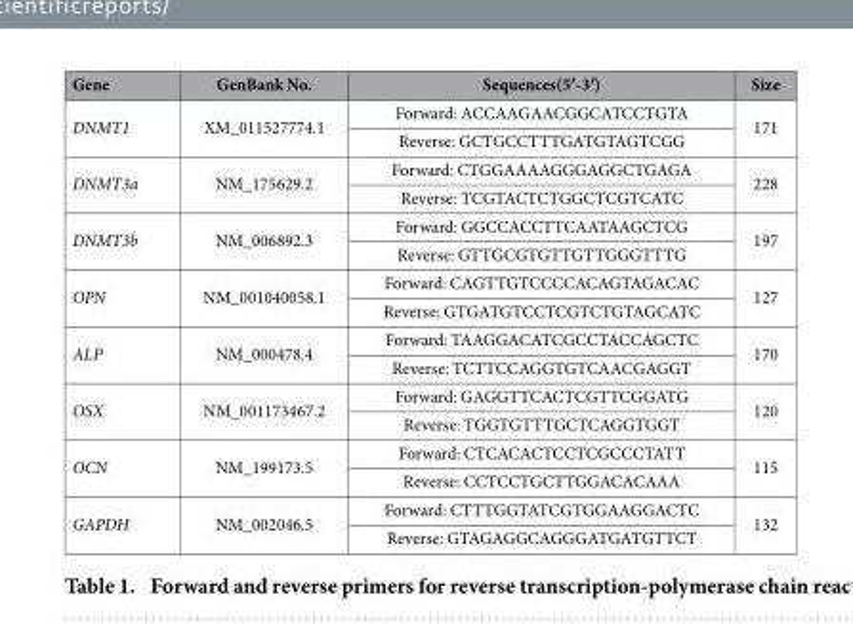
<table><thead><tr><td>Gene</td><td>GenBank No.</td><td>Sequences(5′-3′)</td><td>Size</td></tr></thead><tbody><tr><td rowspan="2">DNMT1</td><td rowspan="2">XM_011527774.1</td><td>Forward: ACCAAGAACGGCATCCTGTA</td><td rowspan="2">171</td></tr><tr><td>Reverse: GCTGCCTTTGATGTAGTCGG</td></tr><tr><td rowspan="2">DNMT3a</td><td rowspan="2">NM_175629.2</td><td>Forward: CTGGAAAAGGGAGGCTGAGA</td><td rowspan="2">228</td></tr><tr><td>Reverse: TCGTACTCTGGCTCGTCATC</td></tr><tr><td rowspan="2">DNMT3b</td><td rowspan="2">NM_006892.3</td><td>Forward: GGCCACCTTCAATAAGCTCG</td><td rowspan="2">197</td></tr><tr><td>Reverse: GTTGCGTGTTGTTGGGTTTG</td></tr><tr><td rowspan="2">OPN</td><td rowspan="2">NM_001040058.1</td><td>Forward: CAGTTGTCCCCACAGTAGACAC</td><td rowspan="2">127</td></tr><tr><td>Reverse: GTGATGTCCTCGTCTGTAGCATC</td></tr><tr><td rowspan="2">ALP</td><td rowspan="2">NM_000478.4</td><td>Forward: TAAGGACATCGCCTACCAGCTC</td><td rowspan="2">170</td></tr><tr><td>Reverse: TCTTCCAGGTGTCAACGAGGT</td></tr><tr><td rowspan="2">OSX</td><td rowspan="2">NM_001173467.2</td><td>Forward: GAGGTTCACTCGTTCGGATG</td><td rowspan="2">120</td></tr><tr><td>Reverse: TGGTGTTTGCTCAGGTGGT</td></tr><tr><td rowspan="2">OCN</td><td rowspan="2">NM_199173.5</td><td>Forward: CTCACACTCCTCGCCCTATT</td><td rowspan="2">115</td></tr><tr><td>Reverse: CCTCCTGCTTGGACACAAA</td></tr><tr><td rowspan="2">GAPDH</td><td rowspan="2">NM_002046.5</td><td>Forward: CTTTGGTATCGTGGAAGGACTC</td><td rowspan="2">132</td></tr><tr><td>Reverse: GTAGAGGCAGGGATGATGTTCT</td></tr></tbody></table>